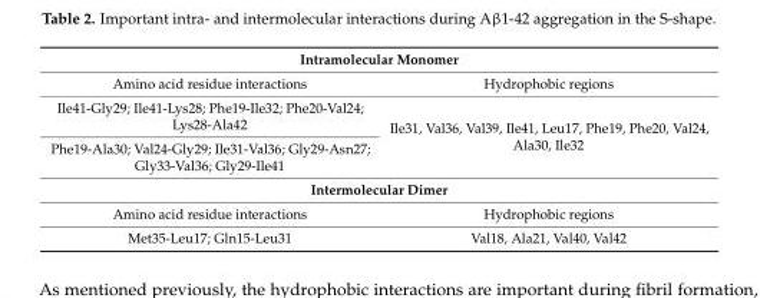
<table><thead><tr><td colspan="2">Intramolecular Monomer</td></tr><tr><td>Amino acid residue interactions</td><td>Hydrophobic regions</td></tr></thead><tbody><tr><td>Ile41-Gly29; Ile41-Lys28; Phe19-Ile32; Phe20-Val24; Lys28-Ala42</td><td rowspan="2">Ile31, Val36, Val39, Ile41, Leu17, Phe19, Phe20, Val24, Ala30, Ile32</td></tr><tr><td>Phe19-Ala30; Val24-Gly29; Ile31-Val36; Gly29-Asn27; Gly33-Val36; Gly29-Ile41</td></tr><tr><td colspan="2">Intermolecular Dimer</td></tr><tr><td>Amino acid residue interactions</td><td>Hydrophobic regions</td></tr><tr><td>Met35-Leu17; Gln15-Leu31</td><td>Val18, Ala21, Val40, Val42</td></tr></tbody></table>